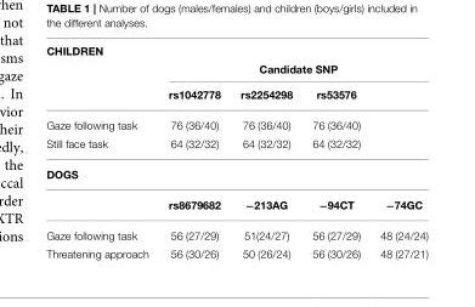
<table><thead><tr><td colspan="5">CHILDREN</td></tr><tr><td rowspan="2"></td><td colspan="4">Candidate SNP</td></tr><tr><td>rs1042778</td><td>rs2254298</td><td>rs53576</td><td></td></tr></thead><tbody><tr><td>Gaze following task</td><td>76 (36/40)</td><td>76 (36/40)</td><td>76 (36/40)</td><td></td></tr><tr><td>Still face task</td><td>64 (32/32)</td><td>64 (32/32)</td><td>64 (32/32)</td><td></td></tr><tr><td colspan="5">DOGS</td></tr><tr><td></td><td>rs8679682</td><td>−213AG</td><td>−94CT</td><td>−74GC</td></tr><tr><td>Gaze following task</td><td>56 (27/29)</td><td>51(24/27)</td><td>56 (27/29)</td><td>48 (24/24)</td></tr><tr><td>Threatening approach</td><td>56 (30/26)</td><td>50 (26/24)</td><td>56 (30/26)</td><td>48 (27/21)</td></tr></tbody></table>